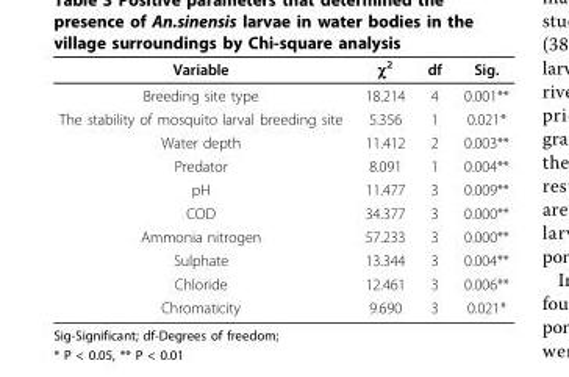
<table><thead><tr><td>Variable</td><td>χ<sup>2</sup></td><td>df</td><td>Sig.</td></tr></thead><tbody><tr><td>Breeding site type</td><td>18.214</td><td>4</td><td>0.001**</td></tr><tr><td>The stability of mosquito larval breeding site</td><td>5.356</td><td>1</td><td>0.021*</td></tr><tr><td>Water depth</td><td>11.412</td><td>2</td><td>0.003**</td></tr><tr><td>Predator</td><td>8.091</td><td>1</td><td>0.004**</td></tr><tr><td>pH</td><td>11.477</td><td>3</td><td>0.009**</td></tr><tr><td>COD</td><td>34.377</td><td>3</td><td>0.000**</td></tr><tr><td>Ammonia nitrogen</td><td>57.233</td><td>3</td><td>0.000**</td></tr><tr><td>Sulphate</td><td>13.344</td><td>3</td><td>0.004**</td></tr><tr><td>Chloride</td><td>12.461</td><td>3</td><td>0.006**</td></tr><tr><td>Chromaticity</td><td>9.690</td><td>3</td><td>0.021*</td></tr></tbody></table>